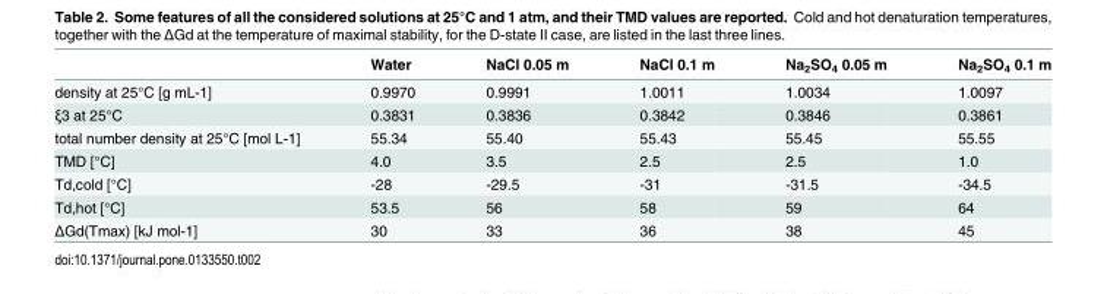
<table><thead><tr><td></td><td>Water</td><td>NaCl 0.05 m</td><td>NaCl 0.1 m</td><td>Na<sub>2</sub>SO<sub>4</sub> 0.05 m</td><td>Na<sub>2</sub>SO<sub>4</sub> 0.1 m</td></tr></thead><tbody><tr><td>density at 25°C [g mL-1]</td><td>0.9970</td><td>0.9991</td><td>1.0011</td><td>1.0034</td><td>1.0097</td></tr><tr><td>ξ3 at 25°C</td><td>0.3831</td><td>0.3836</td><td>0.3842</td><td>0.3846</td><td>0.3861</td></tr><tr><td>total number density at 25°C [mol L-1]</td><td>55.34</td><td>55.40</td><td>55.43</td><td>55.45</td><td>55.55</td></tr><tr><td>TMD [°C]</td><td>4.0</td><td>3.5</td><td>2.5</td><td>2.5</td><td>1.0</td></tr><tr><td>Td,cold [°C]</td><td>-28</td><td>-29.5</td><td>-31</td><td>-31.5</td><td>-34.5</td></tr><tr><td>Td,hot [°C]</td><td>53.5</td><td>56</td><td>58</td><td>59</td><td>64</td></tr><tr><td>ΔGd(Tmax) [kJ mol-1]</td><td>30</td><td>33</td><td>36</td><td>38</td><td>45</td></tr></tbody></table>